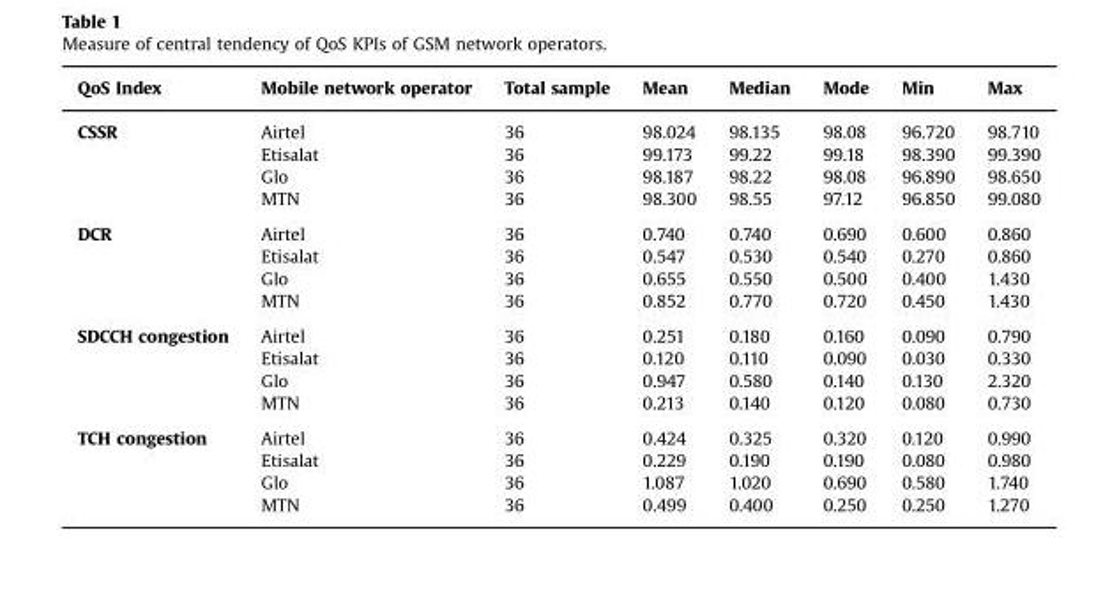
<table><thead><tr><td>QoS Index</td><td>Mobile network operator</td><td>Total sample</td><td>Mean</td><td>Median</td><td>Mode</td><td>Min</td><td>Max</td></tr></thead><tbody><tr><td rowspan="4">CSSR</td><td>Airtel</td><td>36</td><td>98.024</td><td>98.135</td><td>98.08</td><td>96.720</td><td>98.710</td></tr><tr><td>Etisalat</td><td>36</td><td>99.173</td><td>99.22</td><td>99.18</td><td>98.390</td><td>99.390</td></tr><tr><td>Glo</td><td>36</td><td>98.187</td><td>98.22</td><td>98.08</td><td>96.890</td><td>98.650</td></tr><tr><td>MTN</td><td>36</td><td>98.300</td><td>98.55</td><td>97.12</td><td>96.850</td><td>99.080</td></tr><tr><td rowspan="4">DCR</td><td>Airtel</td><td>36</td><td>0.740</td><td>0.740</td><td>0.690</td><td>0.600</td><td>0.860</td></tr><tr><td>Etisalat</td><td>36</td><td>0.547</td><td>0.530</td><td>0.540</td><td>0.270</td><td>0.860</td></tr><tr><td>Glo</td><td>36</td><td>0.655</td><td>0.550</td><td>0.500</td><td>0.400</td><td>1.430</td></tr><tr><td>MTN</td><td>36</td><td>0.852</td><td>0.770</td><td>0.720</td><td>0.450</td><td>1.430</td></tr><tr><td rowspan="4">SDCCH congestion</td><td>Airtel</td><td>36</td><td>0.251</td><td>0.180</td><td>0.160</td><td>0.090</td><td>0.790</td></tr><tr><td>Etisalat</td><td>36</td><td>0.120</td><td>0.110</td><td>0.090</td><td>0.030</td><td>0.330</td></tr><tr><td>Glo</td><td>36</td><td>0.947</td><td>0.580</td><td>0.140</td><td>0.130</td><td>2.320</td></tr><tr><td>MTN</td><td>36</td><td>0.213</td><td>0.140</td><td>0.120</td><td>0.080</td><td>0.730</td></tr><tr><td rowspan="4">TCH congestion</td><td>Airtel</td><td>36</td><td>0.424</td><td>0.325</td><td>0.320</td><td>0.120</td><td>0.990</td></tr><tr><td>Etisalat</td><td>36</td><td>0.229</td><td>0.190</td><td>0.190</td><td>0.080</td><td>0.980</td></tr><tr><td>Glo</td><td>36</td><td>1.087</td><td>1.020</td><td>0.690</td><td>0.580</td><td>1.740</td></tr><tr><td>MTN</td><td>36</td><td>0.499</td><td>0.400</td><td>0.250</td><td>0.250</td><td>1.270</td></tr></tbody></table>